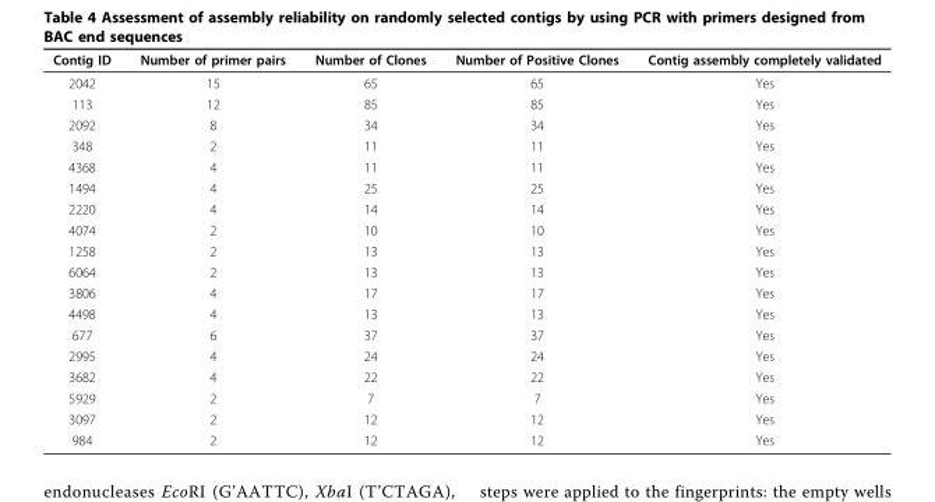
<table><thead><tr><td>Contig ID</td><td>Number of primer pairs</td><td>Number of Clones</td><td>Number of Positive Clones</td><td>Contig assembly completely validated</td></tr></thead><tbody><tr><td>2042</td><td>15</td><td>65</td><td>65</td><td>Yes</td></tr><tr><td>113</td><td>12</td><td>85</td><td>85</td><td>Yes</td></tr><tr><td>2092</td><td>8</td><td>34</td><td>34</td><td>Yes</td></tr><tr><td>348</td><td>2</td><td>11</td><td>11</td><td>Yes</td></tr><tr><td>4368</td><td>4</td><td>11</td><td>11</td><td>Yes</td></tr><tr><td>1494</td><td>4</td><td>25</td><td>25</td><td>Yes</td></tr><tr><td>2220</td><td>4</td><td>14</td><td>14</td><td>Yes</td></tr><tr><td>4074</td><td>2</td><td>10</td><td>10</td><td>Yes</td></tr><tr><td>1258</td><td>2</td><td>13</td><td>13</td><td>Yes</td></tr><tr><td>6064</td><td>2</td><td>13</td><td>13</td><td>Yes</td></tr><tr><td>3806</td><td>4</td><td>17</td><td>17</td><td>Yes</td></tr><tr><td>4498</td><td>4</td><td>13</td><td>13</td><td>Yes</td></tr><tr><td>677</td><td>6</td><td>37</td><td>37</td><td>Yes</td></tr><tr><td>2995</td><td>4</td><td>24</td><td>24</td><td>Yes</td></tr><tr><td>3682</td><td>4</td><td>22</td><td>22</td><td>Yes</td></tr><tr><td>5929</td><td>2</td><td>7</td><td>7</td><td>Yes</td></tr><tr><td>3097</td><td>2</td><td>12</td><td>12</td><td>Yes</td></tr><tr><td>984</td><td>2</td><td>12</td><td>12</td><td>Yes</td></tr></tbody></table>